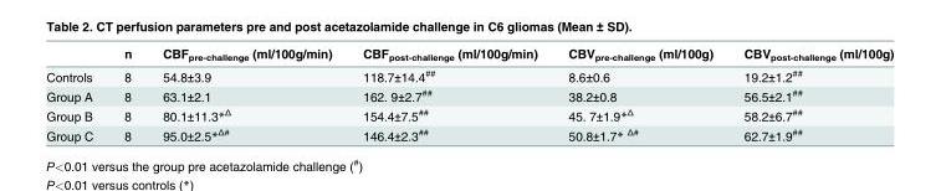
<table><thead><tr><td></td><td>n</td><td>CBF<sub>pre-challenge</sub> (ml/100g/min)</td><td>CBF<sub>post-challenge</sub> (ml/100g/min)</td><td>CBV<sub>pre-challenge</sub> (ml/100g)</td><td>CBV<sub>post-challenge</sub> (ml/100g)</td></tr></thead><tbody><tr><td>Controls</td><td>8</td><td>54.8±3.9</td><td>118.7±14.4<sup>##</sup></td><td>8.6±0.6</td><td>19.2±1.2<sup>##</sup></td></tr><tr><td>Group A</td><td>8</td><td>63.1±2.1</td><td>162. 9±2.7<sup>##</sup></td><td>38.2±0.8</td><td>56.5±2.1<sup>##</sup></td></tr><tr><td>Group B</td><td>8</td><td>80.1±11.3*<sup>Δ</sup></td><td>154.4±7.5<sup>##</sup></td><td>45. 7±1.9*<sup>Δ</sup></td><td>58.2±6.7<sup>##</sup></td></tr><tr><td>Group C</td><td>8</td><td>95.0±2.5*<sup>Δ#</sup></td><td>146.4±2.3<sup>##</sup></td><td>50.8±1.7* <sup>Δ#</sup></td><td>62.7±1.9<sup>##</sup></td></tr></tbody></table>